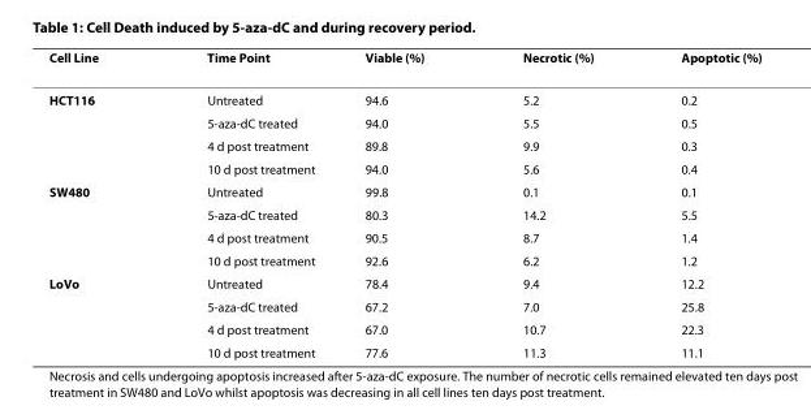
<table><thead><tr><td>Cell Line</td><td>Time Point</td><td>Viable (%)</td><td>Necrotic (%)</td><td>Apoptotic (%)</td></tr></thead><tbody><tr><td rowspan="4">HCT116</td><td>Untreated</td><td>94.6</td><td>5.2</td><td>0.2</td></tr><tr><td>5-aza-dC treated</td><td>94.0</td><td>5.5</td><td>0.5</td></tr><tr><td>4 d post treatment</td><td>89.8</td><td>9.9</td><td>0.3</td></tr><tr><td>10 d post treatment</td><td>94.0</td><td>5.6</td><td>0.4</td></tr><tr><td rowspan="4">SW480</td><td>Untreated</td><td>99.8</td><td>0.1</td><td>0.1</td></tr><tr><td>5-aza-dC treated</td><td>80.3</td><td>14.2</td><td>5.5</td></tr><tr><td>4 d post treatment</td><td>90.5</td><td>8.7</td><td>1.4</td></tr><tr><td>10 d post treatment</td><td>92.6</td><td>6.2</td><td>1.2</td></tr><tr><td rowspan="4">LoVo</td><td>Untreated</td><td>78.4</td><td>9.4</td><td>12.2</td></tr><tr><td>5-aza-dC treated</td><td>67.2</td><td>7.0</td><td>25.8</td></tr><tr><td>4 d post treatment</td><td>67.0</td><td>10.7</td><td>22.3</td></tr><tr><td>10 d post treatment</td><td>77.6</td><td>11.3</td><td>11.1</td></tr></tbody></table>